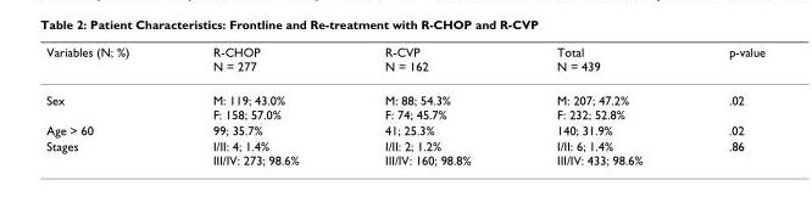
<table><thead><tr><td>Variables (N; %)</td><td>R-CHOP N = 277</td><td>R-CVP N = 162</td><td>Total N = 439</td><td>p-value</td></tr></thead><tbody><tr><td>Sex</td><td>M: 119; 43.0% F: 158; 57.0%</td><td>M: 88; 54.3% F: 74; 45.7%</td><td>M: 207; 47.2% F: 232; 52.8%</td><td>.02</td></tr><tr><td>Age &gt; 60</td><td>99; 35.7%</td><td>41; 25.3%</td><td>140; 31.9%</td><td>.02</td></tr><tr><td>Stages</td><td>I/II: 4; 1.4% III/IV: 273; 98.6%</td><td>I/II: 2; 1.2% III/IV: 160; 98.8%</td><td>I/II: 6; 1.4% III/IV: 433; 98.6%</td><td>.86</td></tr></tbody></table>